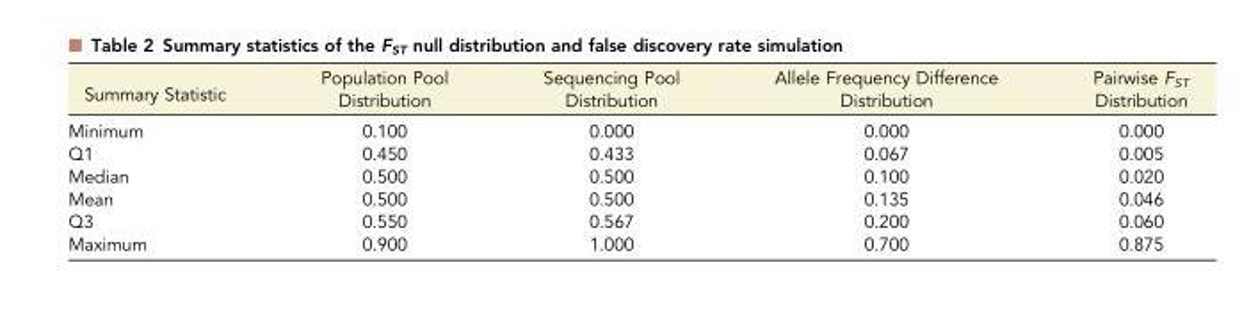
<table><thead><tr><td>Summary Statistic</td><td>Population Pool Distribution</td><td>Sequencing Pool Distribution</td><td>Allele Frequency Difference Distribution</td><td>Pairwise F<sub>ST</sub> Distribution</td></tr></thead><tbody><tr><td>Minimum</td><td>0.100</td><td>0.000</td><td>0.000</td><td>0.000</td></tr><tr><td>Q1</td><td>0.450</td><td>0.433</td><td>0.067</td><td>0.005</td></tr><tr><td>Median</td><td>0.500</td><td>0.500</td><td>0.100</td><td>0.020</td></tr><tr><td>Mean</td><td>0.500</td><td>0.500</td><td>0.135</td><td>0.046</td></tr><tr><td>Q3</td><td>0.550</td><td>0.567</td><td>0.200</td><td>0.060</td></tr><tr><td>Maximum</td><td>0.900</td><td>1.000</td><td>0.700</td><td>0.875</td></tr></tbody></table>